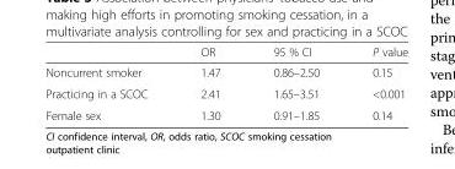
<table><thead><tr><td></td><td>OR</td><td>95 % CI</td><td>P value</td></tr></thead><tbody><tr><td>Noncurrent smoker</td><td>1.47</td><td>0.86–2.50</td><td>0.15</td></tr><tr><td>Practicing in a SCOC</td><td>2.41</td><td>1.65–3.51</td><td>&lt;0.001</td></tr><tr><td>Female sex</td><td>1.30</td><td>0.91–1.85</td><td>0.14</td></tr></tbody></table>